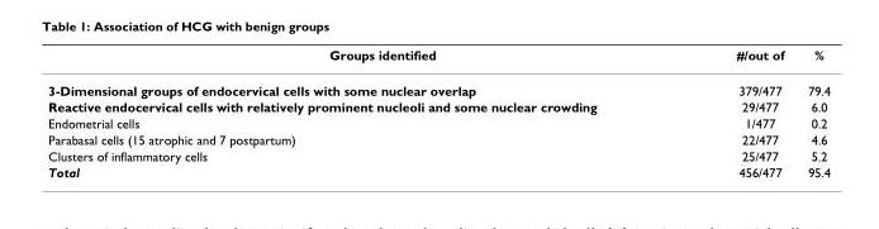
<table><thead><tr><td>Groups identified</td><td>#/out of</td><td>%</td></tr></thead><tbody><tr><td>3-Dimensional groups of endocervical cells with some nuclear overlap</td><td>379/477</td><td>79.4</td></tr><tr><td>Reactive endocervical cells with relatively prominent nucleoli and some nuclear crowding</td><td>29/477</td><td>6.0</td></tr><tr><td>Endometrial cells</td><td>1/477</td><td>0.2</td></tr><tr><td>Parabasal cells (15 atrophic and 7 postpartum)</td><td>22/477</td><td>4.6</td></tr><tr><td>Clusters of inflammatory cells</td><td>25/477</td><td>5.2</td></tr><tr><td>Total</td><td>456/477</td><td>95.4</td></tr></tbody></table>